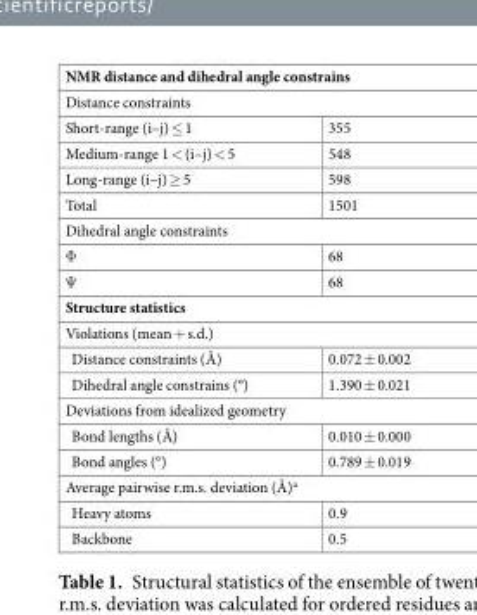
<table><tbody><tr><td colspan="2">NMR distance and dihedral angle constrains</td></tr><tr><td colspan="2">Distance constraints</td></tr><tr><td>Short-range (i–j) ≤ 1</td><td>355</td></tr><tr><td>Medium-range 1 &lt; (i–j) &lt; 5</td><td>548</td></tr><tr><td>Long-range (i–j) ≥ 5</td><td>598</td></tr><tr><td>Total</td><td>1501</td></tr><tr><td colspan="2">Dihedral angle constraints</td></tr><tr><td>Φ</td><td>68</td></tr><tr><td>Ψ</td><td>68</td></tr><tr><td colspan="2">Structure statistics</td></tr><tr><td colspan="2">Violations (mean + s.d.)</td></tr><tr><td>Distance constraints (Å)</td><td>0.072 ± 0.002</td></tr><tr><td>Dihedral angle constrains (°)</td><td>1.390 ± 0.021</td></tr><tr><td colspan="2">Deviations from idealized geometry</td></tr><tr><td>Bond lengths (Å)</td><td>0.010 ± 0.000</td></tr><tr><td>Bond angles (°)</td><td>0.789 ± 0.019</td></tr><tr><td colspan="2">Average pairwise r.m.s. deviation (Å)<sup>a</sup></td></tr><tr><td>Heavy atoms</td><td>0.9</td></tr><tr><td>Backbone</td><td>0.5</td></tr></tbody></table>